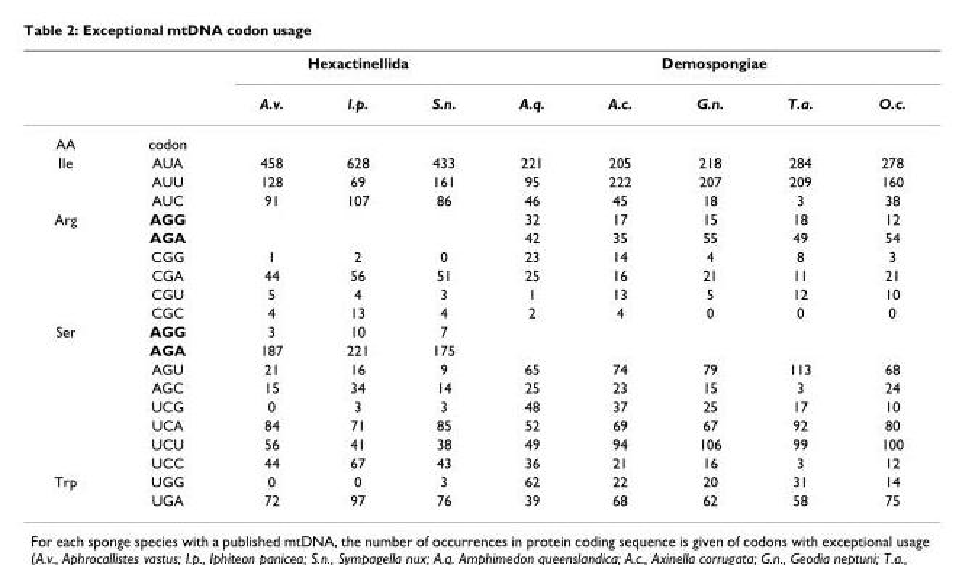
<table><thead><tr><td rowspan="2"></td><td rowspan="2"></td><td colspan="3">Hexactinellida</td><td colspan="5">Demospongiae</td></tr><tr><td>A.v.</td><td>I.p.</td><td>S.n.</td><td>A.q.</td><td>A.c.</td><td>G.n.</td><td>T.a.</td><td>O.c.</td></tr></thead><tbody><tr><td>AA</td><td>codon</td><td></td><td></td><td></td><td></td><td></td><td></td><td></td><td></td></tr><tr><td rowspan="3">Ile</td><td>AUA</td><td>458</td><td>628</td><td>433</td><td>221</td><td>205</td><td>218</td><td>284</td><td>278</td></tr><tr><td>AUU</td><td>128</td><td>69</td><td>161</td><td>95</td><td>222</td><td>207</td><td>209</td><td>160</td></tr><tr><td>AUC</td><td>91</td><td>107</td><td>86</td><td>46</td><td>45</td><td>18</td><td>3</td><td>38</td></tr><tr><td rowspan="6">Arg</td><td>AGG</td><td></td><td></td><td></td><td>32</td><td>17</td><td>15</td><td>18</td><td>12</td></tr><tr><td>AGA</td><td></td><td></td><td></td><td>42</td><td>35</td><td>55</td><td>49</td><td>54</td></tr><tr><td>CGG</td><td>1</td><td>2</td><td>0</td><td>23</td><td>14</td><td>4</td><td>8</td><td>3</td></tr><tr><td>CGA</td><td>44</td><td>56</td><td>51</td><td>25</td><td>16</td><td>21</td><td>11</td><td>21</td></tr><tr><td>CGU</td><td>5</td><td>4</td><td>3</td><td>1</td><td>13</td><td>5</td><td>12</td><td>10</td></tr><tr><td>CGC</td><td>4</td><td>13</td><td>4</td><td>2</td><td>4</td><td>0</td><td>0</td><td>0</td></tr><tr><td rowspan="8">Ser</td><td>AGG</td><td>3</td><td>10</td><td>7</td><td></td><td></td><td></td><td></td><td></td></tr><tr><td>AGA</td><td>187</td><td>221</td><td>175</td><td></td><td></td><td></td><td></td><td></td></tr><tr><td>AGU</td><td>21</td><td>16</td><td>9</td><td>65</td><td>74</td><td>79</td><td>113</td><td>68</td></tr><tr><td>AGC</td><td>15</td><td>34</td><td>14</td><td>25</td><td>23</td><td>15</td><td>3</td><td>24</td></tr><tr><td>UCG</td><td>0</td><td>3</td><td>3</td><td>48</td><td>37</td><td>25</td><td>17</td><td>10</td></tr><tr><td>UCA</td><td>84</td><td>71</td><td>85</td><td>52</td><td>69</td><td>67</td><td>92</td><td>80</td></tr><tr><td>UCU</td><td>56</td><td>41</td><td>38</td><td>49</td><td>94</td><td>106</td><td>99</td><td>100</td></tr><tr><td>UCC</td><td>44</td><td>67</td><td>43</td><td>36</td><td>21</td><td>16</td><td>3</td><td>12</td></tr><tr><td rowspan="2">Trp</td><td>UGG</td><td>0</td><td>0</td><td>3</td><td>62</td><td>22</td><td>20</td><td>31</td><td>14</td></tr><tr><td>UGA</td><td>72</td><td>97</td><td>76</td><td>39</td><td>68</td><td>62</td><td>58</td><td>75</td></tr></tbody></table>